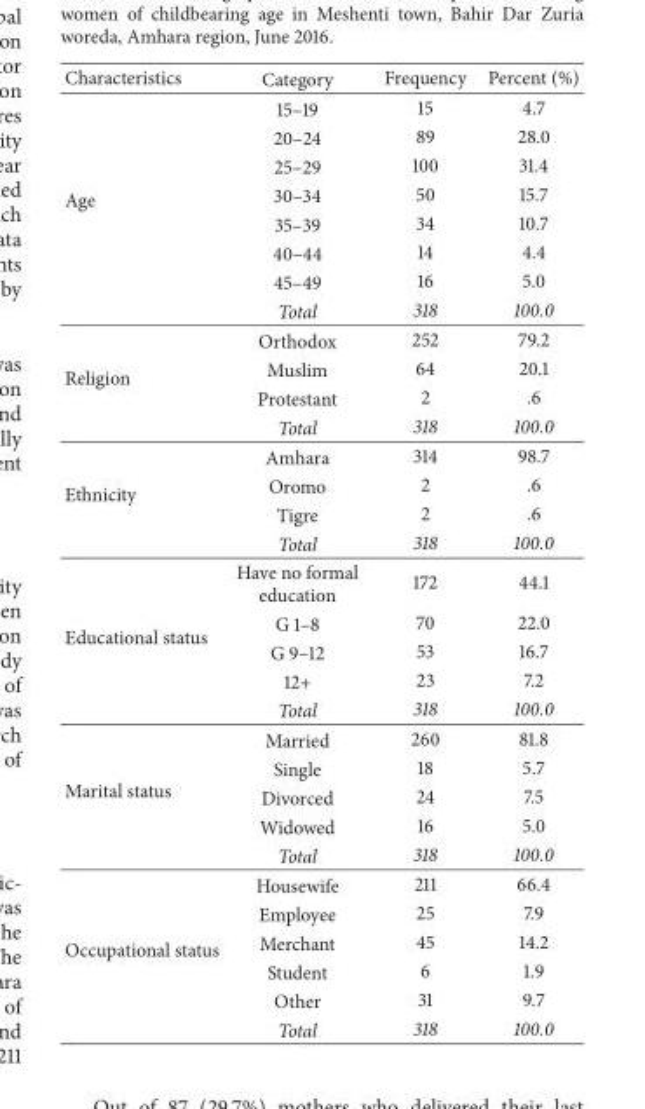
<table><thead><tr><td>Characteristics</td><td>Category</td><td>Frequency</td><td>Percent (%)</td></tr></thead><tbody><tr><td rowspan="8">Age</td><td>15–19</td><td>15</td><td>4.7</td></tr><tr><td>20–24</td><td>89</td><td>28.0</td></tr><tr><td>25–29</td><td>100</td><td>31.4</td></tr><tr><td>30–34</td><td>50</td><td>15.7</td></tr><tr><td>35–39</td><td>34</td><td>10.7</td></tr><tr><td>40–44</td><td>14</td><td>4.4</td></tr><tr><td>45–49</td><td>16</td><td>5.0</td></tr><tr><td>Total</td><td>318</td><td>100.0</td></tr><tr><td rowspan="4">Religion</td><td>Orthodox</td><td>252</td><td>79.2</td></tr><tr><td>Muslim</td><td>64</td><td>20.1</td></tr><tr><td>Protestant</td><td>2</td><td>.6</td></tr><tr><td>Total</td><td>318</td><td>100.0</td></tr><tr><td rowspan="4">Ethnicity</td><td>Amhara</td><td>314</td><td>98.7</td></tr><tr><td>Oromo</td><td>2</td><td>.6</td></tr><tr><td>Tigre</td><td>2</td><td>.6</td></tr><tr><td>Total</td><td>318</td><td>100.0</td></tr><tr><td rowspan="5">Educational status</td><td>Have no formal education</td><td>172</td><td>44.1</td></tr><tr><td>G 1–8</td><td>70</td><td>22.0</td></tr><tr><td>G 9–12</td><td>53</td><td>16.7</td></tr><tr><td>12+</td><td>23</td><td>7.2</td></tr><tr><td>Total</td><td>318</td><td>100.0</td></tr><tr><td rowspan="5">Marital status</td><td>Married</td><td>260</td><td>81.8</td></tr><tr><td>Single</td><td>18</td><td>5.7</td></tr><tr><td>Divorced</td><td>24</td><td>7.5</td></tr><tr><td>Widowed</td><td>16</td><td>5.0</td></tr><tr><td>Total</td><td>318</td><td>100.0</td></tr><tr><td rowspan="6">Occupational status</td><td>Housewife</td><td>211</td><td>66.4</td></tr><tr><td>Employee</td><td>25</td><td>7.9</td></tr><tr><td>Merchant</td><td>45</td><td>14.2</td></tr><tr><td>Student</td><td>6</td><td>1.9</td></tr><tr><td>Other</td><td>31</td><td>9.7</td></tr><tr><td>Total</td><td>318</td><td>100.0</td></tr></tbody></table>